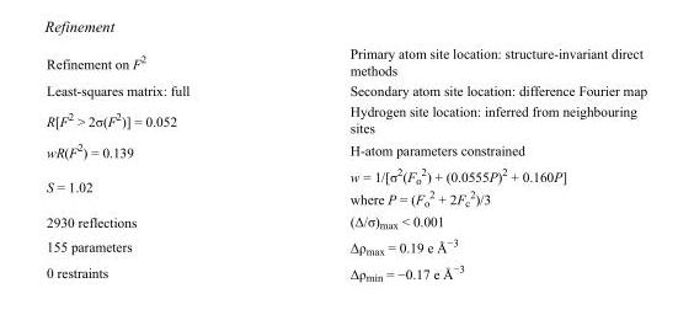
<table><tbody><tr><td>Refinement on F<sup>2</sup></td><td>Primary atom site location: structure-invariant direct methods</td></tr><tr><td>Least-squares matrix: full</td><td>Secondary atom site location: difference Fourier map</td></tr><tr><td>R[F<sup>2</sup> &gt; 2σ(F<sup>2</sup>)] = 0.052</td><td>Hydrogen site location: inferred from neighbouring sites</td></tr><tr><td>wR(F<sup>2</sup>) = 0.139</td><td>H-atom parameters constrained</td></tr><tr><td>S = 1.02</td><td>w = 1/[σ<sup>2</sup>(F<sub>o</sub> <sup>2</sup>) + (0.0555P)<sup>2</sup> + 0.160P] where P = (F<sub>o</sub> <sup>2</sup> + 2F<sub>c</sub> <sup>2</sup>)/3</td></tr><tr><td>2930 reflections</td><td>(Δ/σ)<sub>max</sub> &lt; 0.001</td></tr><tr><td>155 parameters</td><td>Δρ<sub>max</sub> = 0.19 e Å<sup>−3</sup></td></tr><tr><td>0 restraints</td><td>Δρmin = −0.17 e Å−3</td></tr></tbody></table>